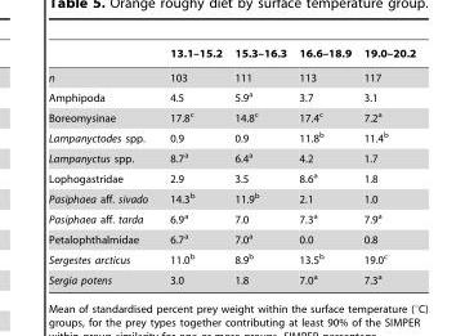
<table><thead><tr><td></td><td>13.1–15.2</td><td>15.3–16.3</td><td>16.6–18.9</td><td>19.0–20.2</td></tr></thead><tbody><tr><td>n</td><td>103</td><td>111</td><td>113</td><td>117</td></tr><tr><td>Amphipoda</td><td>4.5</td><td>5.9<sup>a</sup></td><td>3.7</td><td>3.1</td></tr><tr><td>Boreomysinae</td><td>17.8<sup>c</sup></td><td>14.8<sup>c</sup></td><td>17.4<sup>c</sup></td><td>7.2<sup>a</sup></td></tr><tr><td>Lampanyctodes spp.</td><td>0.9</td><td>0.9</td><td>11.8<sup>b</sup></td><td>11.4<sup>b</sup></td></tr><tr><td>Lampanyctus spp.</td><td>8.7<sup>a</sup></td><td>6.4<sup>a</sup></td><td>4.2</td><td>1.7</td></tr><tr><td>Lophogastridae</td><td>2.9</td><td>3.5</td><td>8.6<sup>a</sup></td><td>1.8</td></tr><tr><td>Pasiphaea aff. sivado</td><td>14.3<sup>b</sup></td><td>11.9<sup>b</sup></td><td>2.1</td><td>1.0</td></tr><tr><td>Pasiphaea aff. tarda</td><td>6.9<sup>a</sup></td><td>7.0</td><td>7.3<sup>a</sup></td><td>7.9<sup>a</sup></td></tr><tr><td>Petalophthalmidae</td><td>6.7<sup>a</sup></td><td>7.0<sup>a</sup></td><td>0.0</td><td>0.8</td></tr><tr><td>Sergestes arcticus</td><td>11.0<sup>b</sup></td><td>8.9<sup>b</sup></td><td>13.5<sup>b</sup></td><td>19.0<sup>c</sup></td></tr><tr><td>Sergia potens</td><td>3.0</td><td>1.8</td><td>7.0<sup>a</sup></td><td>7.3<sup>a</sup></td></tr></tbody></table>